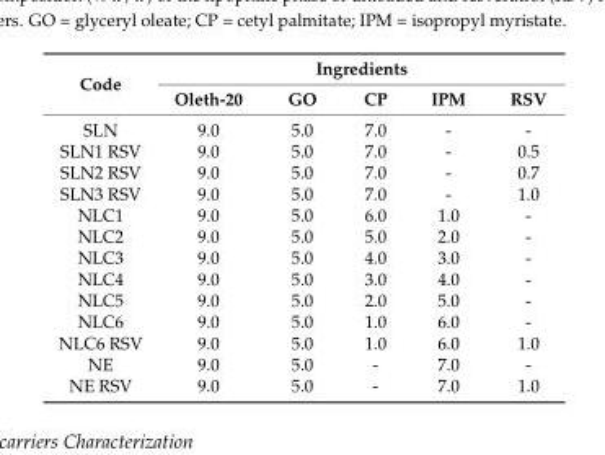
<table><thead><tr><td rowspan="2">Code</td><td colspan="5">Ingredients</td></tr><tr><td>Oleth-20</td><td>GO</td><td>CP</td><td>IPM</td><td>RSV</td></tr></thead><tbody><tr><td>SLN</td><td>9.0</td><td>5.0</td><td>7.0</td><td>-</td><td>-</td></tr><tr><td>SLN1 RSV</td><td>9.0</td><td>5.0</td><td>7.0</td><td>-</td><td>0.5</td></tr><tr><td>SLN2 RSV</td><td>9.0</td><td>5.0</td><td>7.0</td><td>-</td><td>0.7</td></tr><tr><td>SLN3 RSV</td><td>9.0</td><td>5.0</td><td>7.0</td><td>-</td><td>1.0</td></tr><tr><td>NLC1</td><td>9.0</td><td>5.0</td><td>6.0</td><td>1.0</td><td>-</td></tr><tr><td>NLC2</td><td>9.0</td><td>5.0</td><td>5.0</td><td>2.0</td><td>-</td></tr><tr><td>NLC3</td><td>9.0</td><td>5.0</td><td>4.0</td><td>3.0</td><td>-</td></tr><tr><td>NLC4</td><td>9.0</td><td>5.0</td><td>3.0</td><td>4.0</td><td>-</td></tr><tr><td>NLC5</td><td>9.0</td><td>5.0</td><td>2.0</td><td>5.0</td><td>-</td></tr><tr><td>NLC6</td><td>9.0</td><td>5.0</td><td>1.0</td><td>6.0</td><td>-</td></tr><tr><td>NLC6 RSV</td><td>9.0</td><td>5.0</td><td>1.0</td><td>6.0</td><td>1.0</td></tr><tr><td>NE</td><td>9.0</td><td>5.0</td><td>-</td><td>7.0</td><td>-</td></tr><tr><td>NE RSV</td><td>9.0</td><td>5.0</td><td>-</td><td>7.0</td><td>1.0</td></tr></tbody></table>